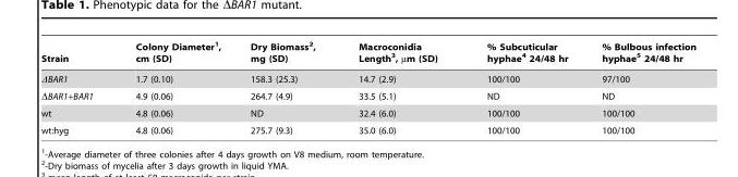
<table><thead><tr><td>Strain</td><td>Colony Diameter<sup>1</sup>, cm (SD)</td><td>Dry Biomass<sup>2</sup>, mg (SD)</td><td>Macroconidia Length<sup>3</sup>, µm (SD)</td><td>% Subcuticular hyphae<sup>4</sup> 24/48 hr</td><td>% Bulbous infection hyphae<sup>5</sup> 24/48 hr</td></tr></thead><tbody><tr><td>ΔBAR1</td><td>1.7 (0.10)</td><td>158.3 (25.3)</td><td>14.7 (2.9)</td><td>100/100</td><td>97/100</td></tr><tr><td>ΔBAR1+BAR1</td><td>4.9 (0.06)</td><td>264.7 (4.9)</td><td>33.5 (5.1)</td><td>ND</td><td>ND</td></tr><tr><td>wt</td><td>4.8 (0.06)</td><td>ND</td><td>32.4 (6.0)</td><td>100/100</td><td>100/100</td></tr><tr><td>wt:hyg</td><td>4.8 (0.06)</td><td>275.7 (9.3)</td><td>35.0 (6.0)</td><td>100/100</td><td>100/100</td></tr></tbody></table>